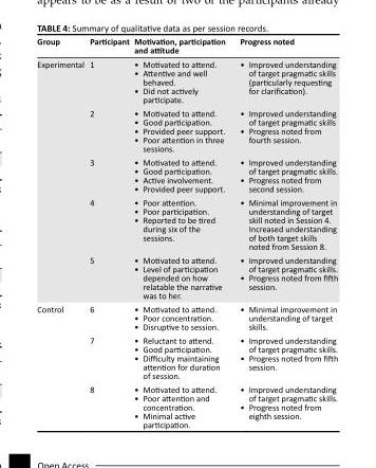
<table><thead><tr><td>Group</td><td>Participant</td><td>Motivation, participation and attitude</td><td>Progress noted</td></tr></thead><tbody><tr><td rowspan="5">Experimental</td><td>1</td><td>• Motivated to attend. • Attentive and well behaved. • Did not actively participate.</td><td>• Improved understanding of target pragmatic skills (particularly requesting for clarification).</td></tr><tr><td>2</td><td>• Motivated to attend. • Good participation. • Provided peer support. • Poor attention in three sessions.</td><td>• Improved understanding of target pragmatic skills • Progress noted from fourth session.</td></tr><tr><td>3</td><td>• Motivated to attend. • Good participation. • Active involvement. • Provided peer support.</td><td>• Improved understanding of target pragmatic skills. • Progress noted from second session.</td></tr><tr><td>4</td><td>• Poor attention. • Poor participation. • Reported to be tired during six of the sessions.</td><td>• Minimal improvement in understanding of target skill noted in Session 4. Increased understanding of both target skills noted from Session 8.</td></tr><tr><td>5</td><td>• Motivated to attend. • Level of participation depended on how relatable the narrative was to her.</td><td>• Improved understanding of target pragmatic skills. • Progress noted from fifth session.</td></tr><tr><td rowspan="3">Control</td><td>6</td><td>• Motivated to attend. • Poor concentration. • Disruptive to session.</td><td>• Minimal improvement in understanding of target skills.</td></tr><tr><td>7</td><td>• Reluctant to attend. • Good participation. • Difficulty maintaining attention for duration of session.</td><td>• Improved understanding of target pragmatic skills. • Progress noted from fifth session.</td></tr><tr><td>8</td><td>• Motivated to attend. • Poor attention and concentration. • Minimal active participation.</td><td>• Improved understanding of target pragmatic skills. • Progress noted from eighth session.</td></tr></tbody></table>